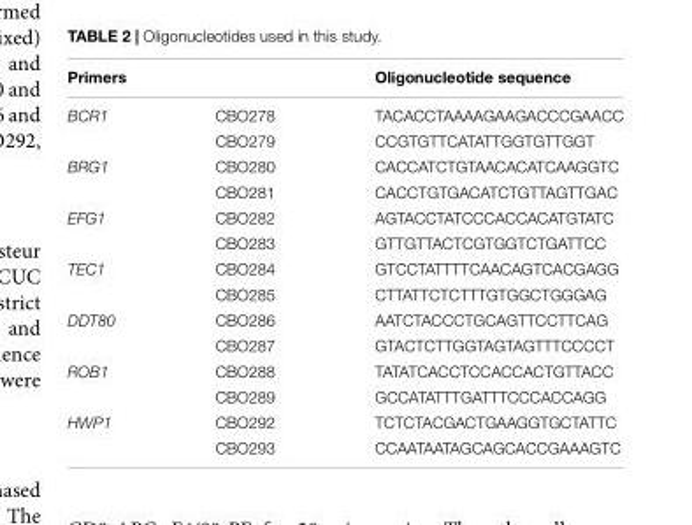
<table><thead><tr><td colspan="2">Primers</td><td rowspan="2">Oligonucleotide sequence TACACCTAAAAGAAGACCCGAACC</td></tr><tr><td>BCR1</td><td>CBO278</td></tr></thead><tbody><tr><td></td><td>CBO279</td><td>CCGTGTTCATATTGGTGTTGGT</td></tr><tr><td rowspan="2">BRG1</td><td>CBO280</td><td>CACCATCTGTAACACATCAAGGTC</td></tr><tr><td>CBO281</td><td>CACCTGTGACATCTGTTAGTTGAC</td></tr><tr><td rowspan="2">EFG1</td><td>CBO282</td><td>AGTACCTATCCCACCACATGTATC</td></tr><tr><td>CBO283</td><td>GTTGTTACTCGTGGTCTGATTCC</td></tr><tr><td rowspan="2">TEC1</td><td>CBO284</td><td>GTCCTATTTTCAACAGTCACGAGG</td></tr><tr><td>CBO285</td><td>CTTATTCTCTTTGTGGCTGGGAG</td></tr><tr><td rowspan="2">DDT80</td><td>CBO286</td><td>AATCTACCCTGCAGTTCCTTCAG</td></tr><tr><td>CBO287</td><td>GTACTCTTGGTAGTAGTTTCCCCT</td></tr><tr><td rowspan="2">ROB1</td><td>CBO288</td><td>TATATCACCTCCACCACTGTTACC</td></tr><tr><td>CBO289</td><td>GCCATATTTGATTTCCCACCAGG</td></tr><tr><td rowspan="2">HWP1</td><td>CBO292</td><td>TCTCTACGACTGAAGGTGCTATTC</td></tr><tr><td>CBO293</td><td>CCAATAATAGCAGCACCGAAAGTC</td></tr></tbody></table>